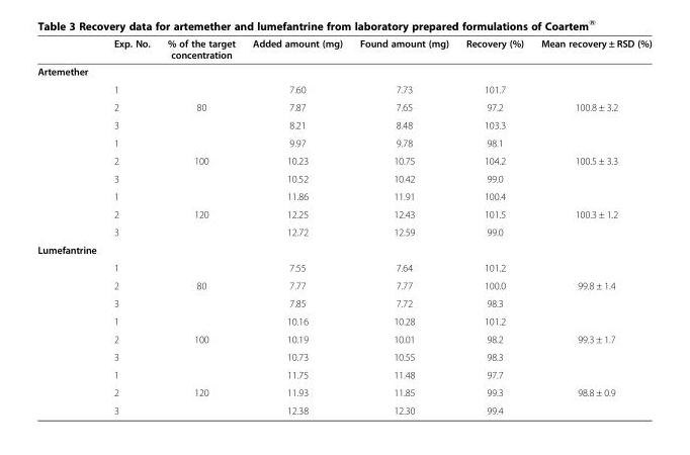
<table><thead><tr><td></td><td>Exp. No.</td><td>% of the target concentration</td><td>Added amount (mg)</td><td>Found amount (mg)</td><td>Recovery (%)</td><td>Mean recovery ± RSD (%)</td></tr></thead><tbody><tr><td colspan="7">Artemether</td></tr><tr><td></td><td>1</td><td></td><td>7.60</td><td>7.73</td><td>101.7</td><td></td></tr><tr><td></td><td>2</td><td>80</td><td>7.87</td><td>7.65</td><td>97.2</td><td>100.8 ± 3.2</td></tr><tr><td></td><td>3</td><td></td><td>8.21</td><td>8.48</td><td>103.3</td><td></td></tr><tr><td></td><td>1</td><td></td><td>9.97</td><td>9.78</td><td>98.1</td><td></td></tr><tr><td></td><td>2</td><td>100</td><td>10.23</td><td>10.75</td><td>104.2</td><td>100.5 ± 3.3</td></tr><tr><td></td><td>3</td><td></td><td>10.52</td><td>10.42</td><td>99.0</td><td></td></tr><tr><td></td><td>1</td><td></td><td>11.86</td><td>11.91</td><td>100.4</td><td></td></tr><tr><td></td><td>2</td><td>120</td><td>12.25</td><td>12.43</td><td>101.5</td><td>100.3 ± 1.2</td></tr><tr><td></td><td>3</td><td></td><td>12.72</td><td>12.59</td><td>99.0</td><td></td></tr><tr><td colspan="7">Lumefantrine</td></tr><tr><td></td><td>1</td><td></td><td>7.55</td><td>7.64</td><td>101.2</td><td></td></tr><tr><td></td><td>2</td><td>80</td><td>7.77</td><td>7.77</td><td>100.0</td><td>99.8 ± 1.4</td></tr><tr><td></td><td>3</td><td></td><td>7.85</td><td>7.72</td><td>98.3</td><td></td></tr><tr><td></td><td>1</td><td></td><td>10.16</td><td>10.28</td><td>101.2</td><td></td></tr><tr><td></td><td>2</td><td>100</td><td>10.19</td><td>10.01</td><td>98.2</td><td>99.3 ± 1.7</td></tr><tr><td></td><td>3</td><td></td><td>10.73</td><td>10.55</td><td>98.3</td><td></td></tr><tr><td></td><td>1</td><td></td><td>11.75</td><td>11.48</td><td>97.7</td><td></td></tr><tr><td></td><td>2</td><td>120</td><td>11.93</td><td>11.85</td><td>99.3</td><td>98.8 ± 0.9</td></tr><tr><td></td><td>3</td><td></td><td>12.38</td><td>12.30</td><td>99.4</td><td></td></tr></tbody></table>